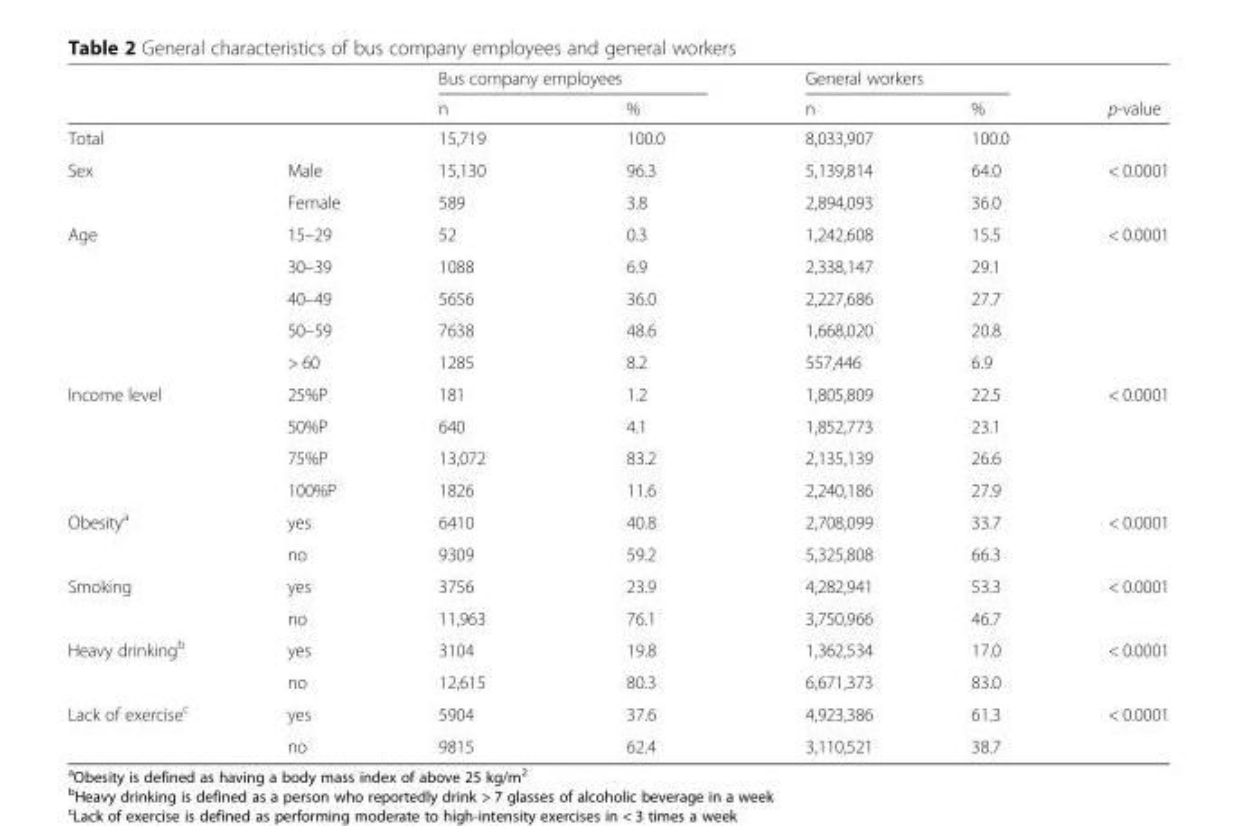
<table><thead><tr><td rowspan="2"></td><td rowspan="2"></td><td colspan="2">Bus company employees</td><td colspan="2">General workers</td><td rowspan="2">p-value</td></tr><tr><td>n</td><td>%</td><td>n</td><td>%</td></tr></thead><tbody><tr><td>Total</td><td></td><td>15,719</td><td>100.0</td><td>8,033,907</td><td>100.0</td><td></td></tr><tr><td rowspan="2">Sex</td><td>Male</td><td>15,130</td><td>96.3</td><td>5,139,814</td><td>64.0</td><td>&lt; 0.0001</td></tr><tr><td>Female</td><td>589</td><td>3.8</td><td>2,894,093</td><td>36.0</td><td></td></tr><tr><td rowspan="5">Age</td><td>15–29</td><td>52</td><td>0.3</td><td>1,242,608</td><td>15.5</td><td>&lt; 0.0001</td></tr><tr><td>30–39</td><td>1088</td><td>6.9</td><td>2,338,147</td><td>29.1</td><td></td></tr><tr><td>40–49</td><td>5656</td><td>36.0</td><td>2,227,686</td><td>27.7</td><td></td></tr><tr><td>50–59</td><td>7638</td><td>48.6</td><td>1,668,020</td><td>20.8</td><td></td></tr><tr><td>&gt; 60</td><td>1285</td><td>8.2</td><td>557,446</td><td>6.9</td><td></td></tr><tr><td rowspan="4">Income level</td><td>25%P</td><td>181</td><td>1.2</td><td>1,805,809</td><td>22.5</td><td>&lt; 0.0001</td></tr><tr><td>50%P</td><td>640</td><td>4.1</td><td>1,852,773</td><td>23.1</td><td></td></tr><tr><td>75%P</td><td>13,072</td><td>83.2</td><td>2,135,139</td><td>26.6</td><td></td></tr><tr><td>100%P</td><td>1826</td><td>11.6</td><td>2,240,186</td><td>27.9</td><td></td></tr><tr><td rowspan="2">Obesity<sup>a</sup></td><td>yes</td><td>6410</td><td>40.8</td><td>2,708,099</td><td>33.7</td><td>&lt; 0.0001</td></tr><tr><td>no</td><td>9309</td><td>59.2</td><td>5,325,808</td><td>66.3</td><td></td></tr><tr><td rowspan="2">Smoking</td><td>yes</td><td>3756</td><td>23.9</td><td>4,282,941</td><td>53.3</td><td>&lt; 0.0001</td></tr><tr><td>no</td><td>11,963</td><td>76.1</td><td>3,750,966</td><td>46.7</td><td></td></tr><tr><td rowspan="2">Heavy drinking<sup>b</sup></td><td>yes</td><td>3104</td><td>19.8</td><td>1,362,534</td><td>17.0</td><td>&lt; 0.0001</td></tr><tr><td>no</td><td>12,615</td><td>80.3</td><td>6,671,373</td><td>83.0</td><td></td></tr><tr><td rowspan="2">Lack of exercise<sup>c</sup></td><td>yes</td><td>5904</td><td>37.6</td><td>4,923,386</td><td>61.3</td><td>&lt; 0.0001</td></tr><tr><td>no</td><td>9815</td><td>62.4</td><td>3,110,521</td><td>38.7</td><td></td></tr></tbody></table>